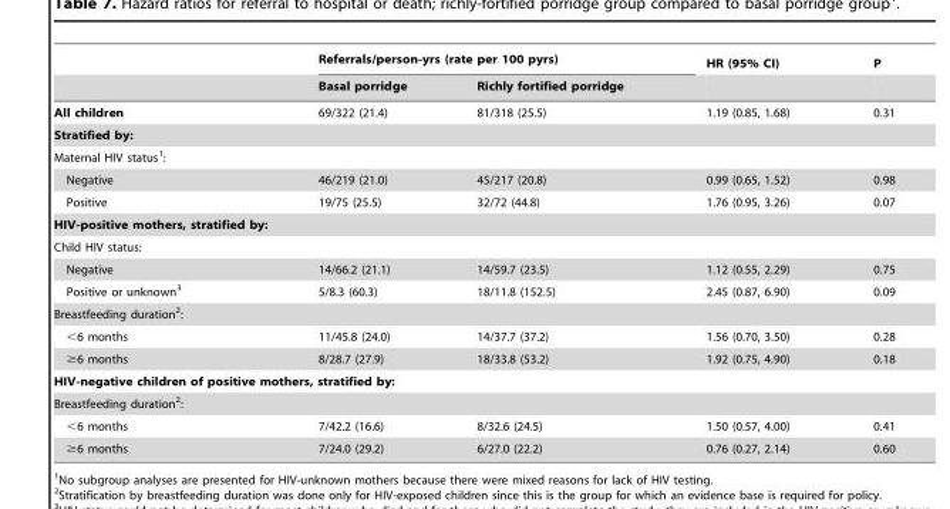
<table><thead><tr><td rowspan="2"></td><td colspan="2">Referrals/person-yrs (rate per 100 pyrs)</td><td rowspan="2">HR (95% CI)</td><td rowspan="2">P</td></tr><tr><td>Basal porridge</td><td>Richly fortified porridge</td></tr></thead><tbody><tr><td>All children</td><td>69/322 (21.4)</td><td>81/318 (25.5)</td><td>1.19 (0.85, 1.68)</td><td>0.31</td></tr><tr><td colspan="5">Stratified by:</td></tr><tr><td colspan="5">Maternal HIV status<sup>1</sup>:</td></tr><tr><td>Negative</td><td>46/219 (21.0)</td><td>45/217 (20.8)</td><td>0.99 (0.65, 1.52)</td><td>0.98</td></tr><tr><td>Positive</td><td>19/75 (25.5)</td><td>32/72 (44.8)</td><td>1.76 (0.95, 3.26)</td><td>0.07</td></tr><tr><td colspan="5">HIV-positive mothers, stratified by:</td></tr><tr><td colspan="5">Child HIV status:</td></tr><tr><td>Negative</td><td>14/66.2 (21.1)</td><td>14/59.7 (23.5)</td><td>1.12 (0.55, 2.29)</td><td>0.75</td></tr><tr><td>Positive or unknown<sup>3</sup></td><td>5/8.3 (60.3)</td><td>18/11.8 (152.5)</td><td>2.45 (0.87, 6.90)</td><td>0.09</td></tr><tr><td colspan="5">Breastfeeding duration<sup>2</sup>:</td></tr><tr><td>&lt;6 months</td><td>11/45.8 (24.0)</td><td>14/37.7 (37.2)</td><td>1.56 (0.70, 3.50)</td><td>0.28</td></tr><tr><td>≥6 months</td><td>8/28.7 (27.9)</td><td>18/33.8 (53.2)</td><td>1.92 (0.75, 4.90)</td><td>0.18</td></tr><tr><td colspan="5">HIV-negative children of positive mothers, stratified by:</td></tr><tr><td colspan="5">Breastfeeding duration<sup>2</sup>:</td></tr><tr><td>&lt;6 months</td><td>7/42.2 (16.6)</td><td>8/32.6 (24.5)</td><td>1.50 (0.57, 4.00)</td><td>0.41</td></tr><tr><td>≥6 months</td><td>7/24.0 (29.2)</td><td>6/27.0 (22.2)</td><td>0.76 (0.27, 2.14)</td><td>0.60</td></tr></tbody></table>